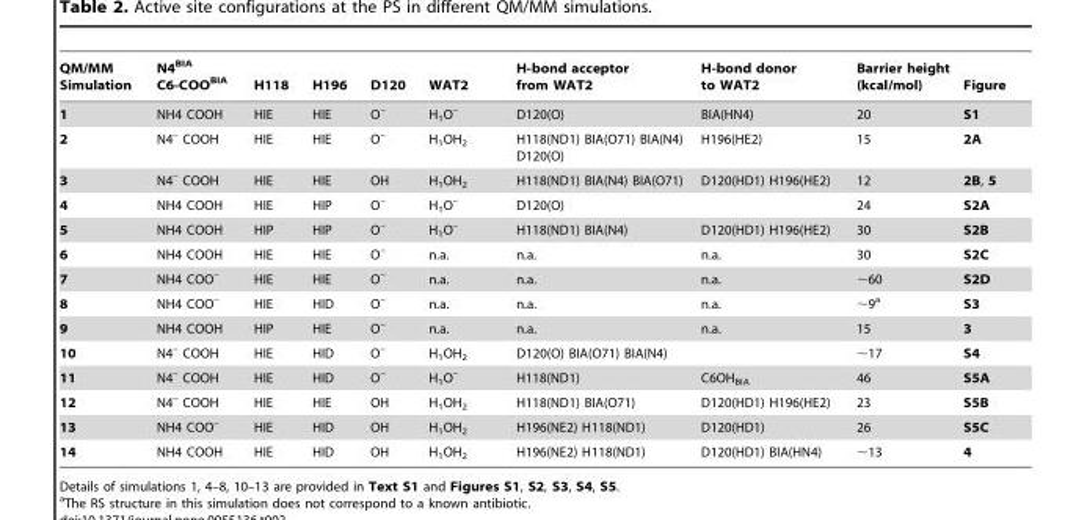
<table><thead><tr><td>QM/MM Simulation</td><td>N4<sup>BIA</sup> C6-COO<sup>BIA</sup></td><td>H118</td><td>H196</td><td>D120</td><td>WAT2</td><td>H-bond acceptor from WAT2</td><td>H-bond donor to WAT2</td><td>Barrier height (kcal/mol)</td><td>Figure</td></tr></thead><tbody><tr><td>1</td><td>NH4 COOH</td><td>HIE</td><td>HIE</td><td>O<sup>–</sup></td><td>H<sub>1</sub>O<sup>–</sup></td><td>D120(O)</td><td>BIA(HN4)</td><td>20</td><td>S1</td></tr><tr><td>2</td><td>N4<sup>–</sup> COOH</td><td>HIE</td><td>HIE</td><td>O<sup>–</sup></td><td>H<sub>1</sub>OH<sub>2</sub></td><td>H118(ND1) BIA(O71) BIA(N4) D120(O)</td><td>H196(HE2)</td><td>15</td><td>2A</td></tr><tr><td>3</td><td>N4<sup>–</sup> COOH</td><td>HIE</td><td>HIE</td><td>OH</td><td>H<sub>1</sub>OH<sub>2</sub></td><td>H118(ND1) BIA(N4) BIA(O71)</td><td>D120(HD1) H196(HE2)</td><td>12</td><td>2B, 5</td></tr><tr><td>4</td><td>NH4 COOH</td><td>HIE</td><td>HIP</td><td>O<sup>–</sup></td><td>H<sub>1</sub>O<sup>–</sup></td><td>D120(O)</td><td></td><td>24</td><td>S2A</td></tr><tr><td>5</td><td>NH4 COOH</td><td>HIP</td><td>HIP</td><td>O<sup>–</sup></td><td>H<sub>1</sub>O<sup>–</sup></td><td>H118(ND1) BIA(N4)</td><td>D120(HD1) H196(HE2)</td><td>30</td><td>S2B</td></tr><tr><td>6</td><td>NH4 COOH</td><td>HIE</td><td>HIE</td><td>O<sup>–</sup></td><td>n.a.</td><td>n.a.</td><td>n.a.</td><td>30</td><td>S2C</td></tr><tr><td>7</td><td>NH4 COO<sup>–</sup></td><td>HIE</td><td>HIE</td><td>O<sup>–</sup></td><td>n.a.</td><td>n.a.</td><td>n.a.</td><td>∼60</td><td>S2D</td></tr><tr><td>8</td><td>NH4 COO<sup>–</sup></td><td>HIE</td><td>HID</td><td>O<sup>–</sup></td><td>n.a.</td><td>n.a.</td><td>n.a.</td><td>∼9<sup>a</sup></td><td>S3</td></tr><tr><td>9</td><td>NH4 COOH</td><td>HIP</td><td>HIE</td><td>O<sup>–</sup></td><td>n.a.</td><td>n.a.</td><td>n.a.</td><td>15</td><td>3</td></tr><tr><td>10</td><td>N4<sup>–</sup> COOH</td><td>HIE</td><td>HID</td><td>O<sup>–</sup></td><td>H<sub>1</sub>OH<sub>2</sub></td><td>D120(O) BIA(O71) BIA(N4)</td><td></td><td>∼17</td><td>S4</td></tr><tr><td>11</td><td>N4<sup>–</sup> COOH</td><td>HIE</td><td>HID</td><td>O<sup>–</sup></td><td>H<sub>1</sub>O<sup>–</sup></td><td>H118(ND1)</td><td>C6OH<sub>BIA</sub></td><td>46</td><td>S5A</td></tr><tr><td>12</td><td>N4<sup>–</sup> COOH</td><td>HIE</td><td>HIE</td><td>OH</td><td>H<sub>1</sub>OH<sub>2</sub></td><td>H118(ND1) BIA(O71)</td><td>D120(HD1) H196(HE2)</td><td>23</td><td>S5B</td></tr><tr><td>13</td><td>NH4 COO<sup>–</sup></td><td>HIE</td><td>HID</td><td>OH</td><td>H<sub>1</sub>OH<sub>2</sub></td><td>H196(NE2) H118(ND1)</td><td>D120(HD1)</td><td>26</td><td>S5C</td></tr><tr><td>14</td><td>NH4 COOH</td><td>HIE</td><td>HID</td><td>OH</td><td>H<sub>1</sub>OH<sub>2</sub></td><td>H196(NE2) H118(ND1)</td><td>D120(HD1) BIA(HN4)</td><td>∼13</td><td>4</td></tr></tbody></table>